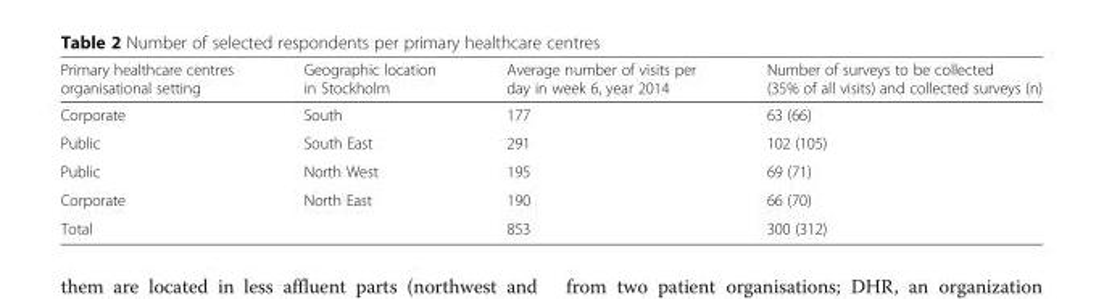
<table><thead><tr><td>Primary healthcare centres organisational setting</td><td>Geographic location in Stockholm</td><td>Average number of visits per day in week 6, year 2014</td><td>Number of surveys to be collected (35% of all visits) and collected surveys (n)</td></tr></thead><tbody><tr><td>Corporate</td><td>South</td><td>177</td><td>63 (66)</td></tr><tr><td>Public</td><td>South East</td><td>291</td><td>102 (105)</td></tr><tr><td>Public</td><td>North West</td><td>195</td><td>69 (71)</td></tr><tr><td>Corporate</td><td>North East</td><td>190</td><td>66 (70)</td></tr><tr><td>Total</td><td></td><td>853</td><td>300 (312)</td></tr></tbody></table>